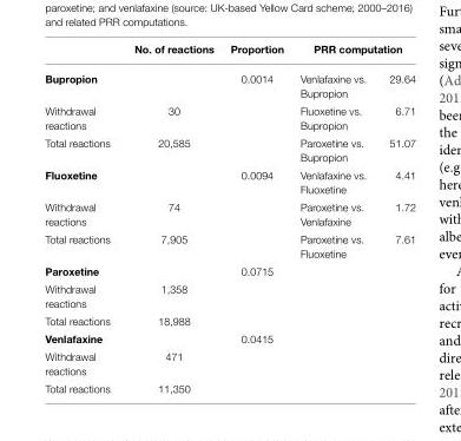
<table><thead><tr><td rowspan="2">Bupropion</td><td rowspan="2">No. of reactions</td><td rowspan="2">Proportion 0.0014</td><td colspan="2">PRR computation</td></tr><tr><td>Venlafaxine vs. Bupropion</td><td>29.64</td></tr></thead><tbody><tr><td>Withdrawal reactions</td><td>30</td><td></td><td>Fluoxetine vs. Bupropion</td><td>6.71</td></tr><tr><td>Total reactions</td><td>20,585</td><td></td><td>Paroxetine vs. Bupropion</td><td>51.07</td></tr><tr><td>Fluoxetine</td><td></td><td>0.0094</td><td>Venlafaxine vs. Fluoxetine</td><td>4.41</td></tr><tr><td>Withdrawal reactions</td><td>74</td><td></td><td>Paroxetine vs. Venlafaxine</td><td>1.72</td></tr><tr><td>Total reactions</td><td>7,905</td><td></td><td>Paroxetine vs. Fluoxetine</td><td>7.61</td></tr><tr><td>Paroxetine</td><td></td><td>0.0715</td><td></td><td></td></tr><tr><td>Withdrawal reactions</td><td>1,358</td><td></td><td></td><td></td></tr><tr><td>Total reactions</td><td>18,988</td><td></td><td></td><td></td></tr><tr><td>Venlafaxine</td><td></td><td>0.0415</td><td></td><td></td></tr><tr><td>Withdrawal reactions</td><td>471</td><td></td><td></td><td></td></tr><tr><td>Total reactions</td><td>11,350</td><td></td><td></td><td></td></tr></tbody></table>